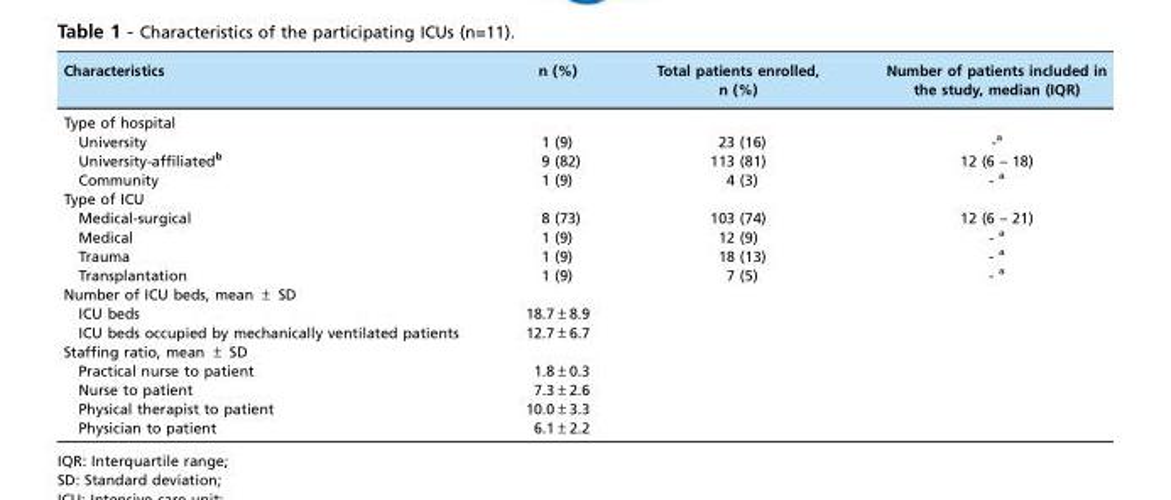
<table><thead><tr><td>Characteristics</td><td>n (%)</td><td>Total patients enrolled, n (%)</td><td>Number of patients included in the study, median (IQR)</td></tr></thead><tbody><tr><td colspan="4">Type of hospital</td></tr><tr><td>University</td><td>1 (9)</td><td>23 (16)</td><td>-<sup>a</sup></td></tr><tr><td>University-affiliated<sup>b</sup></td><td>9 (82)</td><td>113 (81)</td><td>12 (6 – 18)</td></tr><tr><td>Community</td><td>1 (9)</td><td>4 (3)</td><td>- <sup>a</sup></td></tr><tr><td colspan="4">Type of ICU</td></tr><tr><td>Medical-surgical</td><td>8 (73)</td><td>103 (74)</td><td>12 (6 – 21)</td></tr><tr><td>Medical</td><td>1 (9)</td><td>12 (9)</td><td>- <sup>a</sup></td></tr><tr><td>Trauma</td><td>1 (9)</td><td>18 (13)</td><td>- <sup>a</sup></td></tr><tr><td>Transplantation</td><td>1 (9)</td><td>7 (5)</td><td>- <sup>a</sup></td></tr><tr><td colspan="4">Number of ICU beds, mean ± SD</td></tr><tr><td>ICU beds</td><td>18.7±8.9</td><td></td><td></td></tr><tr><td>ICU beds occupied by mechanically ventilated patients</td><td>12.7±6.7</td><td></td><td></td></tr><tr><td colspan="4">Staffing ratio, mean ± SD</td></tr><tr><td>Practical nurse to patient</td><td>1.8±0.3</td><td></td><td></td></tr><tr><td>Nurse to patient</td><td>7.3±2.6</td><td></td><td></td></tr><tr><td>Physical therapist to patient</td><td>10.0±3.3</td><td></td><td></td></tr><tr><td>Physician to patient</td><td>6.1±2.2</td><td></td><td></td></tr></tbody></table>